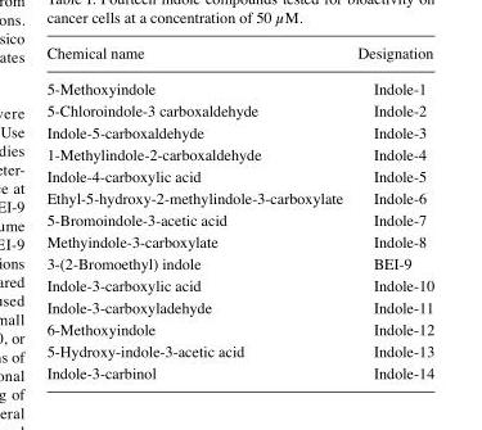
<table><thead><tr><td>Chemical name</td><td>Designation</td></tr></thead><tbody><tr><td>5-Methoxyindole</td><td>Indole-1</td></tr><tr><td>5-Chloroindole-3 carboxaldehyde</td><td>Indole-2</td></tr><tr><td>Indole-5-carboxaldehyde</td><td>Indole-3</td></tr><tr><td>1-Methylindole-2-carboxaldehyde</td><td>Indole-4</td></tr><tr><td>Indole-4-carboxylic acid</td><td>Indole-5</td></tr><tr><td>Ethyl-5-hydroxy-2-methylindole-3-carboxylate</td><td>Indole-6</td></tr><tr><td>5-Bromoindole-3-acetic acid</td><td>Indole-7</td></tr><tr><td>Methyindole-3-carboxylate</td><td>Indole-8</td></tr><tr><td>3-(2-Bromoethyl) indole</td><td>BEI-9</td></tr><tr><td>Indole-3-carboxylic acid</td><td>Indole-10</td></tr><tr><td>Indole-3-carboxyladehyde</td><td>Indole-11</td></tr><tr><td>6-Methoxyindole</td><td>Indole-12</td></tr><tr><td>5-Hydroxy-indole-3-acetic acid</td><td>Indole-13</td></tr><tr><td>Indole-3-carbinol</td><td>Indole-14</td></tr></tbody></table>